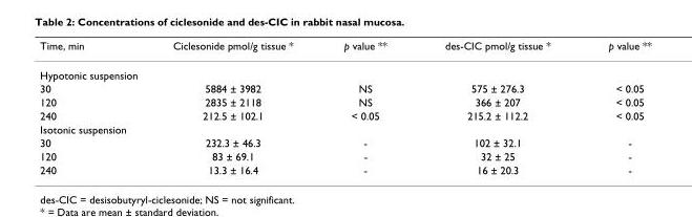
<table><thead><tr><td>Time, min</td><td>Ciclesonide pmol/g tissue *</td><td>p value **</td><td>des-CIC pmol/g tissue *</td><td>p value **</td></tr></thead><tbody><tr><td colspan="5">Hypotonic suspension</td></tr><tr><td>30</td><td>5884 ± 3982</td><td>NS</td><td>575 ± 276.3</td><td>&lt; 0.05</td></tr><tr><td>120</td><td>2835 ± 2118</td><td>NS</td><td>366 ± 207</td><td>&lt; 0.05</td></tr><tr><td>240</td><td>212.5 ± 102.1</td><td>&lt; 0.05</td><td>215.2 ± 112.2</td><td>&lt; 0.05</td></tr><tr><td colspan="5">Isotonic suspension</td></tr><tr><td>30</td><td>232.3 ± 46.3</td><td>-</td><td>102 ± 32.1</td><td>-</td></tr><tr><td>120</td><td>83 ± 69.1</td><td>-</td><td>32 ± 25</td><td>-</td></tr><tr><td>240</td><td>13.3 ± 16.4</td><td>-</td><td>16 ± 20.3</td><td>-</td></tr></tbody></table>